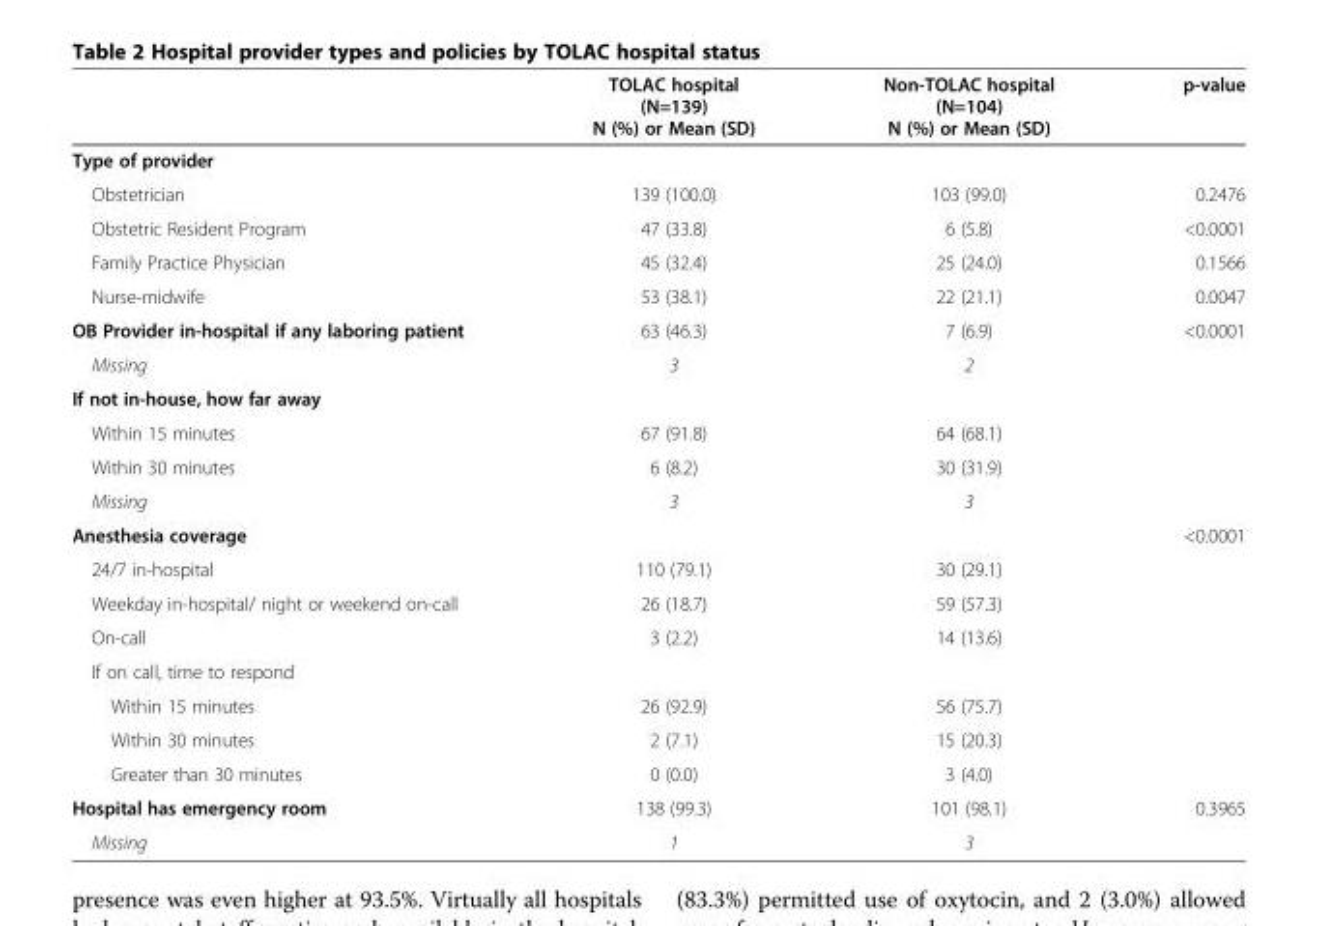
<table><thead><tr><td></td><td>TOLAC hospital (N=139) N (%) or Mean (SD)</td><td>Non-TOLAC hospital (N=104) N (%) or Mean (SD)</td><td>p-value</td></tr></thead><tbody><tr><td colspan="4">Type of provider</td></tr><tr><td>Obstetrician</td><td>139 (100.0)</td><td>103 (99.0)</td><td>0.2476</td></tr><tr><td>Obstetric Resident Program</td><td>47 (33.8)</td><td>6 (5.8)</td><td>&lt;0.0001</td></tr><tr><td>Family Practice Physician</td><td>45 (32.4)</td><td>25 (24.0)</td><td>0.1566</td></tr><tr><td>Nurse-midwife</td><td>53 (38.1)</td><td>22 (21.1)</td><td>0.0047</td></tr><tr><td>OB Provider in-hospital if any laboring patient</td><td>63 (46.3)</td><td>7 (6.9)</td><td rowspan="2">&lt;0.0001</td></tr><tr><td>Missing</td><td>3</td><td>2</td></tr><tr><td colspan="4">If not in-house, how far away</td></tr><tr><td>Within 15 minutes</td><td>67 (91.8)</td><td>64 (68.1)</td><td></td></tr><tr><td>Within 30 minutes</td><td>6 (8.2)</td><td>30 (31.9)</td><td></td></tr><tr><td>Missing</td><td>3</td><td>3</td><td></td></tr><tr><td>Anesthesia coverage</td><td></td><td></td><td>&lt;0.0001</td></tr><tr><td>24/7 in-hospital</td><td>110 (79.1)</td><td>30 (29.1)</td><td></td></tr><tr><td>Weekday in-hospital/ night or weekend on-call</td><td>26 (18.7)</td><td>59 (57.3)</td><td></td></tr><tr><td>On-call</td><td>3 (2.2)</td><td>14 (13.6)</td><td></td></tr><tr><td colspan="4">If on call, time to respond</td></tr><tr><td>Within 15 minutes</td><td>26 (92.9)</td><td>56 (75.7)</td><td></td></tr><tr><td>Within 30 minutes</td><td>2 (7.1)</td><td>15 (20.3)</td><td></td></tr><tr><td>Greater than 30 minutes</td><td>0 (0.0)</td><td>3 (4.0)</td><td></td></tr><tr><td>Hospital has emergency room</td><td>138 (99.3)</td><td>101 (98.1)</td><td>0.3965</td></tr><tr><td>Missing</td><td>1</td><td>3</td><td></td></tr></tbody></table>